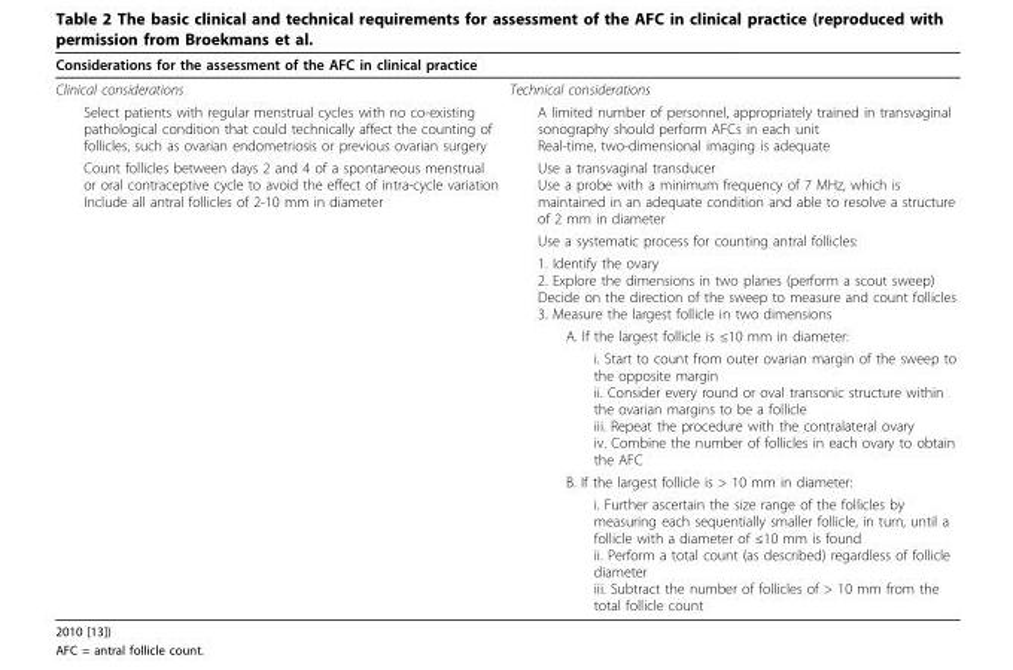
<table><thead><tr><td colspan="2">Considerations for the assessment of the AFC in clinical practice</td></tr><tr><td>Clinical considerations</td><td>Technical considerations</td></tr></thead><tbody><tr><td>Select patients with regular menstrual cycles with no co-existing pathological condition that could technically affect the counting of follicles, such as ovarian endometriosis or previous ovarian surgery</td><td>A limited number of personnel, appropriately trained in transvaginal sonography should perform AFCs in each unit Real-time, two-dimensional imaging is adequate</td></tr><tr><td rowspan="7">Count follicles between days 2 and 4 of a spontaneous menstrual or oral contraceptive cycle to avoid the effect of intra-cycle variation Include all antral follicles of 2-10 mm in diameter</td><td>Use a transvaginal transducer Use a probe with a minimum frequency of 7 MHz, which is maintained in an adequate condition and able to resolve a structure of 2 mm in diameter</td></tr><tr><td>Use a systematic process for counting antral follicles:</td></tr><tr><td>1. Identify the ovary 2. Explore the dimensions in two planes (perform a scout sweep) Decide on the direction of the sweep to measure and count follicles 3. Measure the largest follicle in two dimensions</td></tr><tr><td>A. If the largest follicle is ≤10 mm in diameter:</td></tr><tr><td>i. Start to count from outer ovarian margin of the sweep to the opposite margin ii. Consider every round or oval transonic structure within the ovarian margins to be a follicle iii. Repeat the procedure with the contralateral ovary iv. Combine the number of follicles in each ovary to obtain the AFC</td></tr><tr><td>B. If the largest follicle is &gt; 10 mm in diameter:</td></tr><tr><td>i. Further ascertain the size range of the follicles by measuring each sequentially smaller follicle, in turn, until a follicle with a diameter of ≤10 mm is found ii. Perform a total count (as described) regardless of follicle diameter iii. Subtract the number of follicles of &gt; 10 mm from the total follicle count</td></tr></tbody></table>